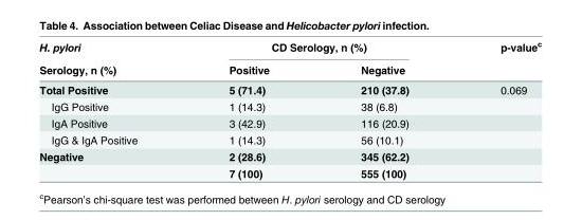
<table><thead><tr><td rowspan="2">H. pylori Serology, n (%)</td><td colspan="2">CD Serology, n (%)</td><td rowspan="2">p-value<sup>c</sup></td></tr><tr><td>Positive</td><td>Negative</td></tr></thead><tbody><tr><td>Total Positive</td><td>5 (71.4)</td><td>210 (37.8)</td><td>0.069</td></tr><tr><td>IgG Positive</td><td>1 (14.3)</td><td>38 (6.8)</td><td></td></tr><tr><td>IgA Positive</td><td>3 (42.9)</td><td>116 (20.9)</td><td></td></tr><tr><td>IgG &amp; IgA Positive</td><td>1 (14.3)</td><td>56 (10.1)</td><td></td></tr><tr><td rowspan="2">Negative</td><td>2 (28.6)</td><td>345 (62.2)</td><td></td></tr><tr><td>7 (100)</td><td>555 (100)</td><td></td></tr></tbody></table>